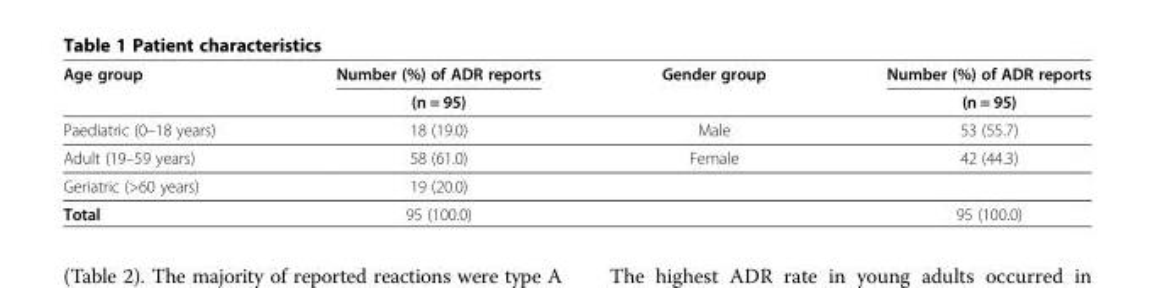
<table><thead><tr><td rowspan="2">Age group</td><td rowspan="2">Number (%) of ADR reports (n = 95)</td><td rowspan="2">Gender group</td><td rowspan="2">Number (%) of ADR reports (n = 95)</td></tr><tr></tr></thead><tbody><tr><td>Paediatric (0–18 years)</td><td>18 (19.0)</td><td>Male</td><td>53 (55.7)</td></tr><tr><td>Adult (19–59 years)</td><td>58 (61.0)</td><td>Female</td><td>42 (44.3)</td></tr><tr><td>Geriatric (&gt;60 years)</td><td>19 (20.0)</td><td></td><td></td></tr><tr><td>Total</td><td>95 (100.0)</td><td></td><td>95 (100.0)</td></tr></tbody></table>